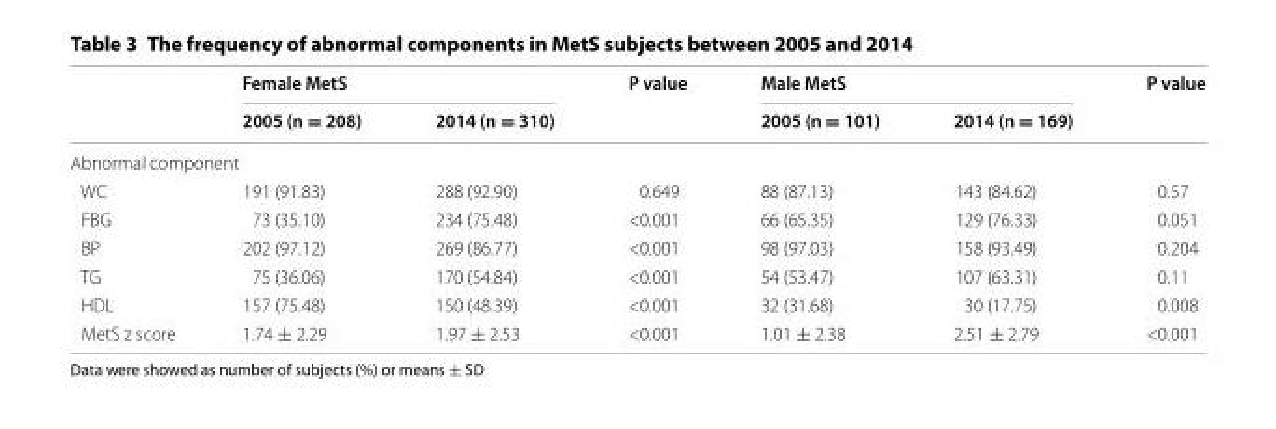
<table><thead><tr><td rowspan="2"></td><td colspan="2">Female MetS</td><td rowspan="2">P value</td><td colspan="2">Male MetS</td><td rowspan="2">P value</td></tr><tr><td>2005 (n = 208)</td><td>2014 (n = 310)</td><td>2005 (n = 101)</td><td>2014 (n = 169)</td></tr></thead><tbody><tr><td colspan="7">Abnormal component</td></tr><tr><td>WC</td><td>191 (91.83)</td><td>288 (92.90)</td><td>0.649</td><td>88 (87.13)</td><td>143 (84.62)</td><td>0.57</td></tr><tr><td>FBG</td><td>73 (35.10)</td><td>234 (75.48)</td><td>&lt;0.001</td><td>66 (65.35)</td><td>129 (76.33)</td><td>0.051</td></tr><tr><td>BP</td><td>202 (97.12)</td><td>269 (86.77)</td><td>&lt;0.001</td><td>98 (97.03)</td><td>158 (93.49)</td><td>0.204</td></tr><tr><td>TG</td><td>75 (36.06)</td><td>170 (54.84)</td><td>&lt;0.001</td><td>54 (53.47)</td><td>107 (63.31)</td><td>0.11</td></tr><tr><td>HDL</td><td>157 (75.48)</td><td>150 (48.39)</td><td>&lt;0.001</td><td>32 (31.68)</td><td>30 (17.75)</td><td>0.008</td></tr><tr><td>MetS z score</td><td>1.74 ± 2.29</td><td>1.97 ± 2.53</td><td>&lt;0.001</td><td>1.01 ± 2.38</td><td>2.51 ± 2.79</td><td>&lt;0.001</td></tr></tbody></table>